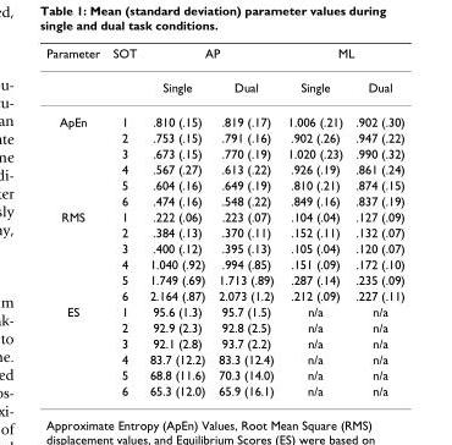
<table><thead><tr><td rowspan="2">Parameter</td><td rowspan="2">SOT</td><td colspan="2">AP</td><td colspan="2">ML</td></tr><tr><td>Single</td><td>Dual</td><td>Single</td><td>Dual</td></tr></thead><tbody><tr><td rowspan="6">ApEn</td><td>1</td><td>.810 (.15)</td><td>.819 (.17)</td><td>1.006 (.21)</td><td>.902 (.30)</td></tr><tr><td>2</td><td>.753 (.15)</td><td>.791 (.16)</td><td>.902 (.26)</td><td>.947 (.22)</td></tr><tr><td>3</td><td>.673 (.15)</td><td>.770 (.19)</td><td>1.020 (.23)</td><td>.990 (.32)</td></tr><tr><td>4</td><td>.567 (.27)</td><td>.613 (.22)</td><td>.926 (.19)</td><td>.861 (.24)</td></tr><tr><td>5</td><td>.604 (.16)</td><td>.649 (.19)</td><td>.810 (.21)</td><td>.874 (.15)</td></tr><tr><td>6</td><td>.474 (.16)</td><td>.548 (.22)</td><td>.849 (.16)</td><td>.837 (.19)</td></tr><tr><td rowspan="6">RMS</td><td>1</td><td>.222 (.06)</td><td>.223 (.07)</td><td>.104 (.04)</td><td>.127 (.09)</td></tr><tr><td>2</td><td>.384 (.13)</td><td>.370 (.11)</td><td>.152 (.11)</td><td>.132 (.07)</td></tr><tr><td>3</td><td>.400 (.12)</td><td>.395 (.13)</td><td>.105 (.04)</td><td>.120 (.07)</td></tr><tr><td>4</td><td>1.040 (.92)</td><td>.994 (.85)</td><td>.151 (.09)</td><td>.172 (.10)</td></tr><tr><td>5</td><td>1.749 (.69)</td><td>1.713 (.89)</td><td>.287 (.14)</td><td>.235 (.09)</td></tr><tr><td>6</td><td>2.164 (.87)</td><td>2.073 (1.2)</td><td>.212 (.09)</td><td>.227 (.11)</td></tr><tr><td rowspan="6">ES</td><td>1</td><td>95.6 (1.3)</td><td>95.7 (1.5)</td><td>n/a</td><td>n/a</td></tr><tr><td>2</td><td>92.9 (2.3)</td><td>92.8 (2.5)</td><td>n/a</td><td>n/a</td></tr><tr><td>3</td><td>92.1 (2.8)</td><td>93.7 (2.2)</td><td>n/a</td><td>n/a</td></tr><tr><td>4</td><td>83.7 (12.2)</td><td>83.3 (12.4)</td><td>n/a</td><td>n/a</td></tr><tr><td>5</td><td>68.8 (11.6)</td><td>70.3 (14.0)</td><td>n/a</td><td>n/a</td></tr><tr><td>6</td><td>65.3 (12.0)</td><td>65.9 (16.1)</td><td>n/a</td><td>n/a</td></tr></tbody></table>